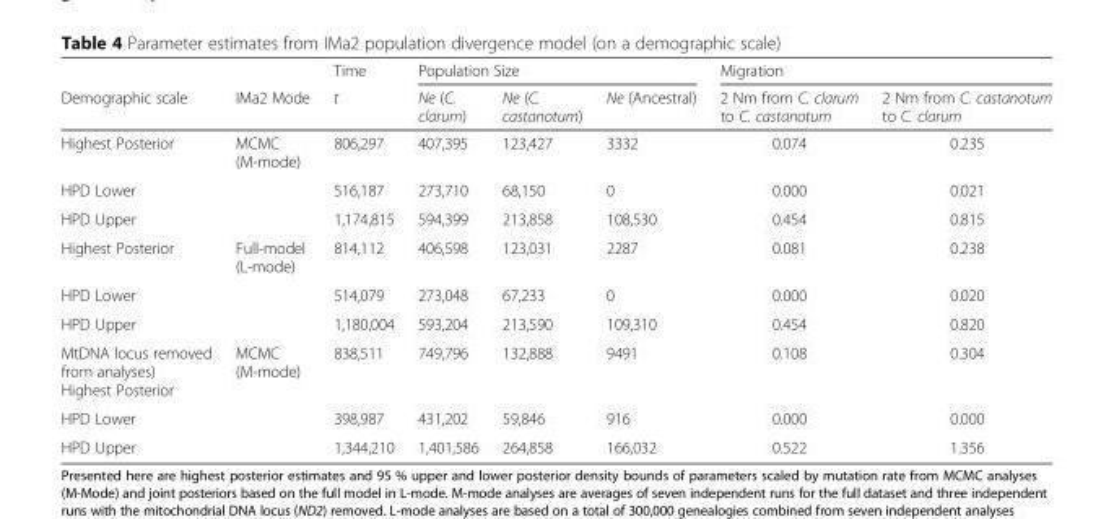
<table><thead><tr><td rowspan="2">Demographic scale</td><td rowspan="2">IMa2 Mode</td><td rowspan="2">Time t</td><td colspan="3">Population Size</td><td colspan="2">Migration</td></tr><tr><td>Ne (C. clarum)</td><td>Ne (C. castanotum)</td><td>Ne (Ancestral)</td><td>2 Nm from C. clarum to C. castanotum</td><td>2 Nm from C. castanotum to C. clarum</td></tr></thead><tbody><tr><td>Highest Posterior</td><td>MCMC (M-mode)</td><td>806,297</td><td>407,395</td><td>123,427</td><td>3332</td><td>0.074</td><td>0.235</td></tr><tr><td>HPD Lower</td><td></td><td>516,187</td><td>273,710</td><td>68,150</td><td>0</td><td>0.000</td><td>0.021</td></tr><tr><td>HPD Upper</td><td></td><td>1,174,815</td><td>594,399</td><td>213,858</td><td>108,530</td><td>0.454</td><td>0.815</td></tr><tr><td>Highest Posterior</td><td>Full-model (L-mode)</td><td>814,112</td><td>406,598</td><td>123,031</td><td>2287</td><td>0.081</td><td>0.238</td></tr><tr><td>HPD Lower</td><td></td><td>514,079</td><td>273,048</td><td>67,233</td><td>0</td><td>0.000</td><td>0.020</td></tr><tr><td>HPD Upper</td><td></td><td>1,180,004</td><td>593,204</td><td>213,590</td><td>109,310</td><td>0.454</td><td>0.820</td></tr><tr><td>MtDNA locus removed from analyses) Highest Posterior</td><td>MCMC (M-mode)</td><td>838,511</td><td>749,796</td><td>132,888</td><td>9491</td><td>0.108</td><td>0.304</td></tr><tr><td>HPD Lower</td><td></td><td>398,987</td><td>431,202</td><td>59,846</td><td>916</td><td>0.000</td><td>0.000</td></tr><tr><td>HPD Upper</td><td></td><td>1,344,210</td><td>1,401,586</td><td>264,858</td><td>166,032</td><td>0.522</td><td>1.356</td></tr></tbody></table>